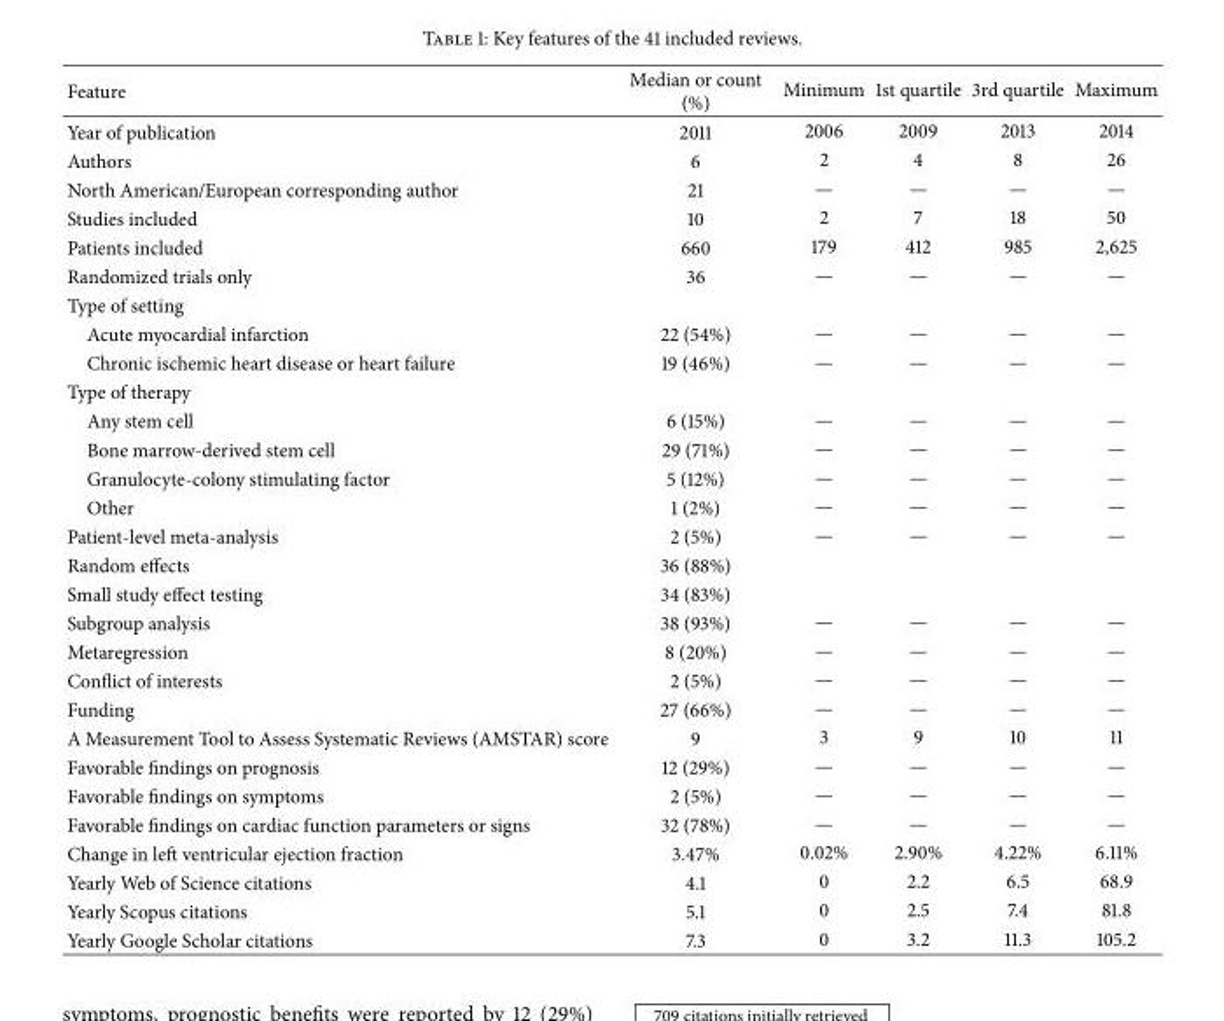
<table><thead><tr><td>Feature</td><td>Median or count (%)</td><td>Minimum</td><td>1st quartile</td><td>3rd quartile</td><td>Maximum</td></tr></thead><tbody><tr><td>Year of publication</td><td>2011</td><td>2006</td><td>2009</td><td>2013</td><td>2014</td></tr><tr><td>Authors</td><td>6</td><td>2</td><td>4</td><td>8</td><td>26</td></tr><tr><td>North American/European corresponding author</td><td>21</td><td>—</td><td>—</td><td>—</td><td>—</td></tr><tr><td>Studies included</td><td>10</td><td>2</td><td>7</td><td>18</td><td>50</td></tr><tr><td>Patients included</td><td>660</td><td>179</td><td>412</td><td>985</td><td>2,625</td></tr><tr><td>Randomized trials only</td><td>36</td><td>—</td><td>—</td><td>—</td><td>—</td></tr><tr><td colspan="6">Type of setting</td></tr><tr><td>Acute myocardial infarction</td><td>22 (54%)</td><td>—</td><td>—</td><td>—</td><td>—</td></tr><tr><td>Chronic ischemic heart disease or heart failure</td><td>19 (46%)</td><td>—</td><td>—</td><td>—</td><td>—</td></tr><tr><td colspan="6">Type of therapy</td></tr><tr><td>Any stem cell</td><td>6 (15%)</td><td>—</td><td>—</td><td>—</td><td>—</td></tr><tr><td>Bone marrow-derived stem cell</td><td>29 (71%)</td><td>—</td><td>—</td><td>—</td><td>—</td></tr><tr><td>Granulocyte-colony stimulating factor</td><td>5 (12%)</td><td>—</td><td>—</td><td>—</td><td>—</td></tr><tr><td>Other</td><td>1 (2%)</td><td>—</td><td>—</td><td>—</td><td>—</td></tr><tr><td>Patient-level meta-analysis</td><td>2 (5%)</td><td>—</td><td>—</td><td>—</td><td>—</td></tr><tr><td>Random effects</td><td>36 (88%)</td><td></td><td></td><td></td><td></td></tr><tr><td>Small study effect testing</td><td>34 (83%)</td><td></td><td></td><td></td><td></td></tr><tr><td>Subgroup analysis</td><td>38 (93%)</td><td>—</td><td>—</td><td>—</td><td>—</td></tr><tr><td>Metaregression</td><td>8 (20%)</td><td>—</td><td>—</td><td>—</td><td>—</td></tr><tr><td>Conflict of interests</td><td>2 (5%)</td><td>—</td><td>—</td><td>—</td><td>—</td></tr><tr><td>Funding</td><td>27 (66%)</td><td>—</td><td>—</td><td>—</td><td>—</td></tr><tr><td>A Measurement Tool to Assess Systematic Reviews (AMSTAR) score</td><td>9</td><td>3</td><td>9</td><td>10</td><td>11</td></tr><tr><td>Favorable findings on prognosis</td><td>12 (29%)</td><td>—</td><td>—</td><td>—</td><td>—</td></tr><tr><td>Favorable findings on symptoms</td><td>2 (5%)</td><td>—</td><td>—</td><td>—</td><td>—</td></tr><tr><td>Favorable findings on cardiac function parameters or signs</td><td>32 (78%)</td><td>—</td><td>—</td><td>—</td><td>—</td></tr><tr><td>Change in left ventricular ejection fraction</td><td>3.47%</td><td>0.02%</td><td>2.90%</td><td>4.22%</td><td>6.11%</td></tr><tr><td>Yearly Web of Science citations</td><td>4.1</td><td>0</td><td>2.2</td><td>6.5</td><td>68.9</td></tr><tr><td>Yearly Scopus citations</td><td>5.1</td><td>0</td><td>2.5</td><td>7.4</td><td>81.8</td></tr><tr><td>Yearly Google Scholar citations</td><td>7.3</td><td>0</td><td>3.2</td><td>11.3</td><td>105.2</td></tr></tbody></table>